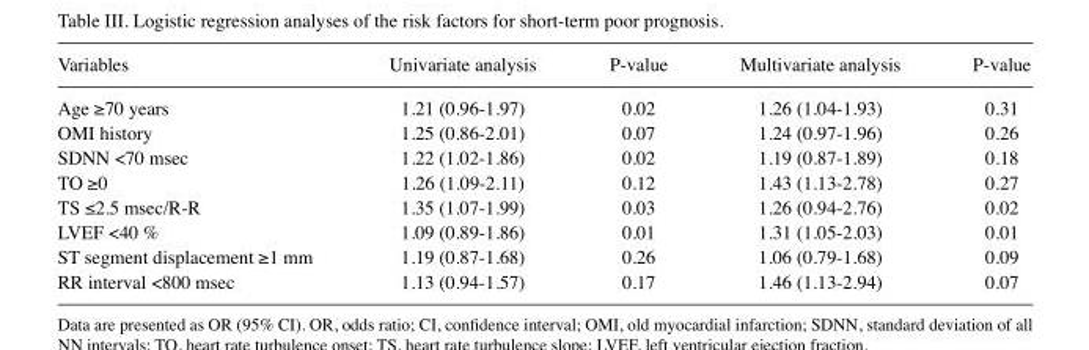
<table><thead><tr><td>Variables</td><td>Univariate analysis</td><td>P-value</td><td>Multivariate analysis</td><td>P-value</td></tr></thead><tbody><tr><td>Age ≥70 years</td><td>1.21 (0.96‑1.97)</td><td>0.02</td><td>1.26 (1.04‑1.93)</td><td>0.31</td></tr><tr><td>OMI history</td><td>1.25 (0.86-2.01)</td><td>0.07</td><td>1.24 (0.97-1.96)</td><td>0.26</td></tr><tr><td>SDNN &lt;70 msec</td><td>1.22 (1.02‑1.86)</td><td>0.02</td><td>1.19 (0.87‑1.89)</td><td>0.18</td></tr><tr><td>TO ≥0</td><td>1.26 (1.09‑2.11)</td><td>0.12</td><td>1.43 (1.13‑2.78)</td><td>0.27</td></tr><tr><td>TS ≤2.5 msec/R‑R</td><td>1.35 (1.07‑1.99)</td><td>0.03</td><td>1.26 (0.94‑2.76)</td><td>0.02</td></tr><tr><td>LVEF &lt;40 %</td><td>1.09 (0.89‑1.86)</td><td>0.01</td><td>1.31 (1.05‑2.03)</td><td>0.01</td></tr><tr><td>ST segment displacement ≥1 mm</td><td>1.19 (0.87‑1.68)</td><td>0.26</td><td>1.06 (0.79‑1.68)</td><td>0.09</td></tr><tr><td>RR interval &lt;800 msec</td><td>1.13 (0.94‑1.57)</td><td>0.17</td><td>1.46 (1.13‑2.94)</td><td>0.07</td></tr></tbody></table>